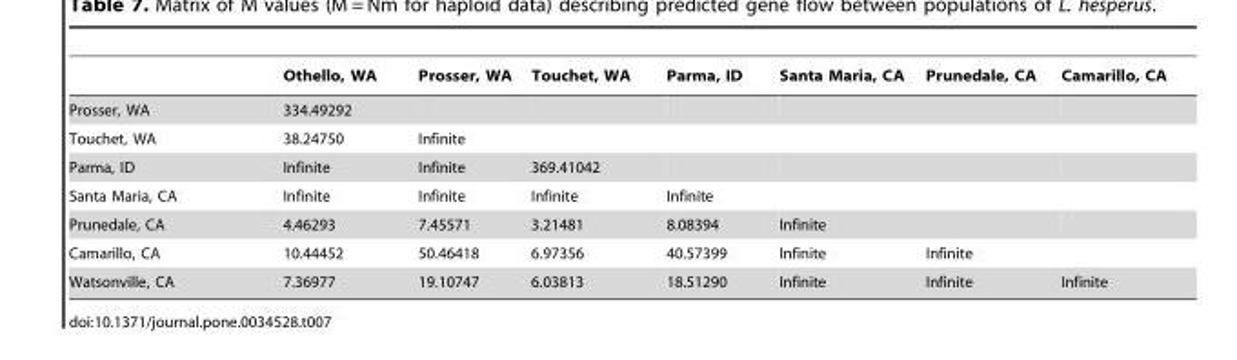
<table><thead><tr><td></td><td>Othello, WA</td><td>Prosser, WA</td><td>Touchet, WA</td><td>Parma, ID</td><td>Santa Maria, CA</td><td>Prunedale, CA</td><td>Camarillo, CA</td></tr></thead><tbody><tr><td>Prosser, WA</td><td>334.49292</td><td></td><td></td><td></td><td></td><td></td><td></td></tr><tr><td>Touchet, WA</td><td>38.24750</td><td>Infinite</td><td></td><td></td><td></td><td></td><td></td></tr><tr><td>Parma, ID</td><td>Infinite</td><td>Infinite</td><td>369.41042</td><td></td><td></td><td></td><td></td></tr><tr><td>Santa Maria, CA</td><td>Infinite</td><td>Infinite</td><td>Infinite</td><td>Infinite</td><td></td><td></td><td></td></tr><tr><td>Prunedale, CA</td><td>4.46293</td><td>7.45571</td><td>3.21481</td><td>8.08394</td><td>Infinite</td><td></td><td></td></tr><tr><td>Camarillo, CA</td><td>10.44452</td><td>50.46418</td><td>6.97356</td><td>40.57399</td><td>Infinite</td><td>Infinite</td><td></td></tr><tr><td>Watsonville, CA</td><td>7.36977</td><td>19.10747</td><td>6.03813</td><td>18.51290</td><td>Infinite</td><td>Infinite</td><td>Infinite</td></tr></tbody></table>